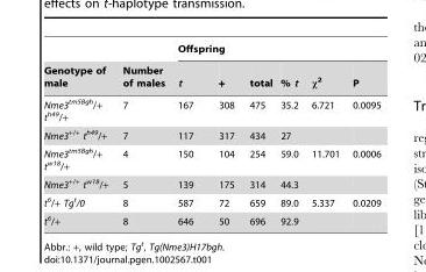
<table><thead><tr><td rowspan="2">Genotype of male</td><td rowspan="2">Number of males</td><td colspan="6">Offspring</td></tr><tr><td>t</td><td>+</td><td>total</td><td>% t</td><td>χ<sup>2</sup></td><td>P</td></tr></thead><tbody><tr><td>Nme3<sup>tm5Bgh</sup>/+ t<sup>h49</sup>/+</td><td>7</td><td>167</td><td>308</td><td>475</td><td>35.2</td><td>6.721</td><td>0.0095</td></tr><tr><td>Nme3<sup>+/+</sup> t<sup>h49</sup>/+</td><td>7</td><td>117</td><td>317</td><td>434</td><td>27</td><td></td><td></td></tr><tr><td>Nme3<sup>tm5Bgh</sup>/+ t<sup>w18</sup>/+</td><td>4</td><td>150</td><td>104</td><td>254</td><td>59.0</td><td>11.701</td><td>0.0006</td></tr><tr><td>Nme3<sup>+/+</sup> t<sup>w18</sup>/+</td><td>5</td><td>139</td><td>175</td><td>314</td><td>44.3</td><td></td><td></td></tr><tr><td>t<sup>6</sup>/+ Tg<sup>t</sup>/0</td><td>8</td><td>587</td><td>72</td><td>659</td><td>89.0</td><td>5.337</td><td>0.0209</td></tr><tr><td>t<sup>6</sup>/+</td><td>8</td><td>646</td><td>50</td><td>696</td><td>92.9</td><td></td><td></td></tr></tbody></table>